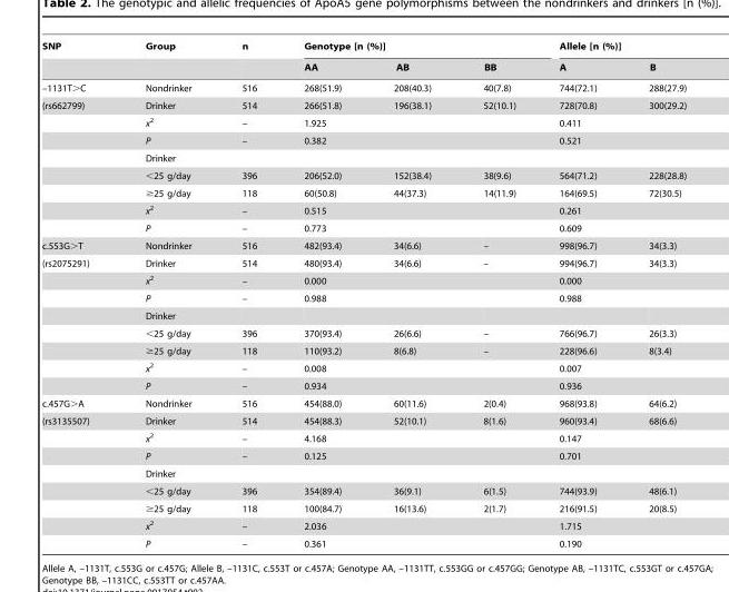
<table><thead><tr><td rowspan="3">SNP –1131T&gt;C</td><td rowspan="3">Group Nondrinker</td><td rowspan="3">n 516</td><td rowspan="2" colspan="3">Genotype [n (%)] AA AB BB</td><td rowspan="2" colspan="2">Allele [n (%)] A B</td></tr><tr></tr><tr><td>268(51.9)</td><td>208(40.3)</td><td>40(7.8)</td><td>744(72.1)</td><td>288(27.9)</td></tr></thead><tbody><tr><td rowspan="8">(rs662799)</td><td>Drinker</td><td>514</td><td>266(51.8)</td><td>196(38.1)</td><td>52(10.1)</td><td>728(70.8)</td><td>300(29.2)</td></tr><tr><td>x<sup>2</sup></td><td>–</td><td colspan="3">1.925</td><td colspan="2">0.411</td></tr><tr><td>P</td><td>–</td><td colspan="3">0.382</td><td colspan="2">0.521</td></tr><tr><td>Drinker</td><td></td><td></td><td></td><td></td><td></td><td></td></tr><tr><td>&lt;25 g/day</td><td>396</td><td>206(52.0)</td><td>152(38.4)</td><td>38(9.6)</td><td>564(71.2)</td><td>228(28.8)</td></tr><tr><td>≥25 g/day</td><td>118</td><td>60(50.8)</td><td>44(37.3)</td><td>14(11.9)</td><td>164(69.5)</td><td>72(30.5)</td></tr><tr><td>x<sup>2</sup></td><td>–</td><td colspan="3">0.515</td><td colspan="2">0.261</td></tr><tr><td>P</td><td>–</td><td colspan="3">0.773</td><td colspan="2">0.609</td></tr><tr><td>c.553G&gt;T</td><td>Nondrinker</td><td>516</td><td>482(93.4)</td><td>34(6.6)</td><td>–</td><td>998(96.7)</td><td>34(3.3)</td></tr><tr><td rowspan="8">(rs2075291)</td><td>Drinker</td><td>514</td><td>480(93.4)</td><td>34(6.6)</td><td>–</td><td>994(96.7)</td><td>34(3.3)</td></tr><tr><td>x<sup>2</sup></td><td>–</td><td colspan="3">0.000</td><td colspan="2">0.000</td></tr><tr><td>P</td><td>–</td><td colspan="3">0.988</td><td colspan="2">0.988</td></tr><tr><td>Drinker</td><td></td><td></td><td></td><td></td><td></td><td></td></tr><tr><td>&lt;25 g/day</td><td>396</td><td>370(93.4)</td><td>26(6.6)</td><td>–</td><td>766(96.7)</td><td>26(3.3)</td></tr><tr><td>≥25 g/day</td><td>118</td><td>110(93.2)</td><td>8(6.8)</td><td>–</td><td>228(96.6)</td><td>8(3.4)</td></tr><tr><td>x<sup>2</sup></td><td>–</td><td colspan="3">0.008</td><td colspan="2">0.007</td></tr><tr><td>P</td><td>–</td><td colspan="3">0.934</td><td colspan="2">0.936</td></tr><tr><td>c.457G&gt;A</td><td>Nondrinker</td><td>516</td><td>454(88.0)</td><td>60(11.6)</td><td>2(0.4)</td><td>968(93.8)</td><td>64(6.2)</td></tr><tr><td rowspan="8">(rs3135507)</td><td>Drinker</td><td>514</td><td>454(88.3)</td><td>52(10.1)</td><td>8(1.6)</td><td>960(93.4)</td><td>68(6.6)</td></tr><tr><td>x<sup>2</sup></td><td>–</td><td colspan="3">4.168</td><td colspan="2">0.147</td></tr><tr><td>P</td><td>–</td><td colspan="3">0.125</td><td colspan="2">0.701</td></tr><tr><td>Drinker</td><td></td><td></td><td></td><td></td><td></td><td></td></tr><tr><td>&lt;25 g/day</td><td>396</td><td>354(89.4)</td><td>36(9.1)</td><td>6(1.5)</td><td>744(93.9)</td><td>48(6.1)</td></tr><tr><td>≥25 g/day</td><td>118</td><td>100(84.7)</td><td>16(13.6)</td><td>2(1.7)</td><td>216(91.5)</td><td>20(8.5)</td></tr><tr><td>x<sup>2</sup></td><td>–</td><td colspan="3">2.036</td><td colspan="2">1.715</td></tr><tr><td>P</td><td>–</td><td colspan="3">0.361</td><td colspan="2">0.190</td></tr></tbody></table>